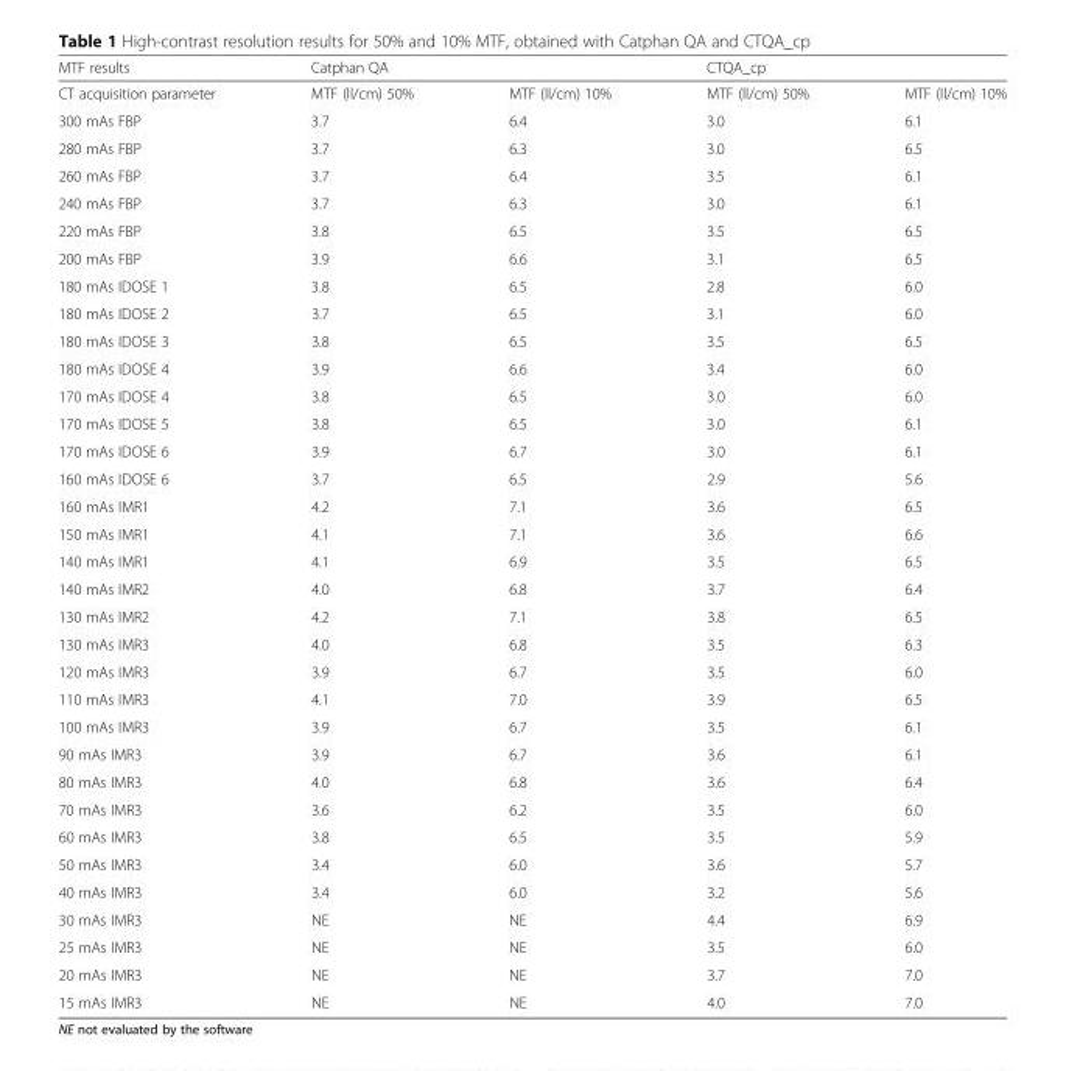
<table><thead><tr><td rowspan="2">MTF results CT acquisition parameter</td><td colspan="2">Catphan QA</td><td colspan="2">CTQA_cp</td></tr><tr><td>MTF (ll/cm) 50%</td><td>MTF (ll/cm) 10%</td><td>MTF (ll/cm) 50%</td><td>MTF (ll/cm) 10%</td></tr></thead><tbody><tr><td>300 mAs FBP</td><td>3.7</td><td>6.4</td><td>3.0</td><td>6.1</td></tr><tr><td>280 mAs FBP</td><td>3.7</td><td>6.3</td><td>3.0</td><td>6.5</td></tr><tr><td>260 mAs FBP</td><td>3.7</td><td>6.4</td><td>3.5</td><td>6.1</td></tr><tr><td>240 mAs FBP</td><td>3.7</td><td>6.3</td><td>3.0</td><td>6.1</td></tr><tr><td>220 mAs FBP</td><td>3.8</td><td>6.5</td><td>3.5</td><td>6.5</td></tr><tr><td>200 mAs FBP</td><td>3.9</td><td>6.6</td><td>3.1</td><td>6.5</td></tr><tr><td>180 mAs IDOSE 1</td><td>3.8</td><td>6.5</td><td>2.8</td><td>6.0</td></tr><tr><td>180 mAs IDOSE 2</td><td>3.7</td><td>6.5</td><td>3.1</td><td>6.0</td></tr><tr><td>180 mAs IDOSE 3</td><td>3.8</td><td>6.5</td><td>3.5</td><td>6.5</td></tr><tr><td>180 mAs IDOSE 4</td><td>3.9</td><td>6.6</td><td>3.4</td><td>6.0</td></tr><tr><td>170 mAs IDOSE 4</td><td>3.8</td><td>6.5</td><td>3.0</td><td>6.0</td></tr><tr><td>170 mAs IDOSE 5</td><td>3.8</td><td>6.5</td><td>3.0</td><td>6.1</td></tr><tr><td>170 mAs IDOSE 6</td><td>3.9</td><td>6.7</td><td>3.0</td><td>6.1</td></tr><tr><td>160 mAs IDOSE 6</td><td>3.7</td><td>6.5</td><td>2.9</td><td>5.6</td></tr><tr><td>160 mAs IMR1</td><td>4.2</td><td>7.1</td><td>3.6</td><td>6.5</td></tr><tr><td>150 mAs IMR1</td><td>4.1</td><td>7.1</td><td>3.6</td><td>6.6</td></tr><tr><td>140 mAs IMR1</td><td>4.1</td><td>6.9</td><td>3.5</td><td>6.5</td></tr><tr><td>140 mAs IMR2</td><td>4.0</td><td>6.8</td><td>3.7</td><td>6.4</td></tr><tr><td>130 mAs IMR2</td><td>4.2</td><td>7.1</td><td>3.8</td><td>6.5</td></tr><tr><td>130 mAs IMR3</td><td>4.0</td><td>6.8</td><td>3.5</td><td>6.3</td></tr><tr><td>120 mAs IMR3</td><td>3.9</td><td>6.7</td><td>3.5</td><td>6.0</td></tr><tr><td>110 mAs IMR3</td><td>4.1</td><td>7.0</td><td>3.9</td><td>6.5</td></tr><tr><td>100 mAs IMR3</td><td>3.9</td><td>6.7</td><td>3.5</td><td>6.1</td></tr><tr><td>90 mAs IMR3</td><td>3.9</td><td>6.7</td><td>3.6</td><td>6.1</td></tr><tr><td>80 mAs IMR3</td><td>4.0</td><td>6.8</td><td>3.6</td><td>6.4</td></tr><tr><td>70 mAs IMR3</td><td>3.6</td><td>6.2</td><td>3.5</td><td>6.0</td></tr><tr><td>60 mAs IMR3</td><td>3.8</td><td>6.5</td><td>3.5</td><td>5.9</td></tr><tr><td>50 mAs IMR3</td><td>3.4</td><td>6.0</td><td>3.6</td><td>5.7</td></tr><tr><td>40 mAs IMR3</td><td>3.4</td><td>6.0</td><td>3.2</td><td>5.6</td></tr><tr><td>30 mAs IMR3</td><td>NE</td><td>NE</td><td>4.4</td><td>6.9</td></tr><tr><td>25 mAs IMR3</td><td>NE</td><td>NE</td><td>3.5</td><td>6.0</td></tr><tr><td>20 mAs IMR3</td><td>NE</td><td>NE</td><td>3.7</td><td>7.0</td></tr><tr><td>15 mAs IMR3</td><td>NE</td><td>NE</td><td>4.0</td><td>7.0</td></tr></tbody></table>